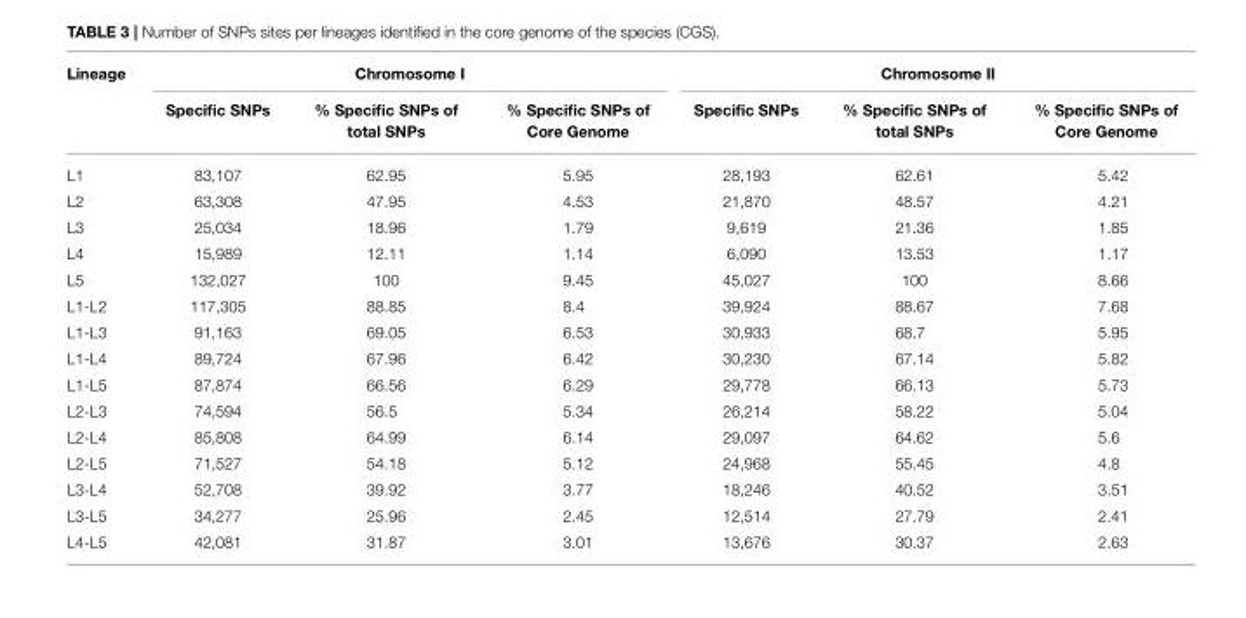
<table><thead><tr><td rowspan="2">Lineage</td><td colspan="3">Chromosome I</td><td colspan="3">Chromosome II</td></tr><tr><td>Specific SNPs</td><td>% Specific SNPs of total SNPs</td><td>% Specific SNPs of Core Genome</td><td>Specific SNPs</td><td>% Specific SNPs of total SNPs</td><td>% Specific SNPs of Core Genome</td></tr></thead><tbody><tr><td>L1</td><td>83,107</td><td>62.95</td><td>5.95</td><td>28,193</td><td>62.61</td><td>5.42</td></tr><tr><td>L2</td><td>63,308</td><td>47.95</td><td>4.53</td><td>21,870</td><td>48.57</td><td>4.21</td></tr><tr><td>L3</td><td>25,034</td><td>18.96</td><td>1.79</td><td>9,619</td><td>21.36</td><td>1.85</td></tr><tr><td>L4</td><td>15,989</td><td>12.11</td><td>1.14</td><td>6,090</td><td>13.53</td><td>1.17</td></tr><tr><td>L5</td><td>132,027</td><td>100</td><td>9.45</td><td>45,027</td><td>100</td><td>8.66</td></tr><tr><td>L1-L2</td><td>117,305</td><td>88.85</td><td>8.4</td><td>39,924</td><td>88.67</td><td>7.68</td></tr><tr><td>L1-L3</td><td>91,163</td><td>69.05</td><td>6.53</td><td>30,933</td><td>68.7</td><td>5.95</td></tr><tr><td>L1-L4</td><td>89,724</td><td>67.96</td><td>6.42</td><td>30,230</td><td>67.14</td><td>5.82</td></tr><tr><td>L1-L5</td><td>87,874</td><td>66.56</td><td>6.29</td><td>29,778</td><td>66.13</td><td>5.73</td></tr><tr><td>L2-L3</td><td>74,594</td><td>56.5</td><td>5.34</td><td>26,214</td><td>58.22</td><td>5.04</td></tr><tr><td>L2-L4</td><td>85,808</td><td>64.99</td><td>6.14</td><td>29,097</td><td>64.62</td><td>5.6</td></tr><tr><td>L2-L5</td><td>71,527</td><td>54.18</td><td>5.12</td><td>24,968</td><td>55.45</td><td>4.8</td></tr><tr><td>L3-L4</td><td>52,708</td><td>39.92</td><td>3.77</td><td>18,246</td><td>40.52</td><td>3.51</td></tr><tr><td>L3-L5</td><td>34,277</td><td>25.96</td><td>2.45</td><td>12,514</td><td>27.79</td><td>2.41</td></tr><tr><td>L4-L5</td><td>42,081</td><td>31.87</td><td>3.01</td><td>13,676</td><td>30.37</td><td>2.63</td></tr></tbody></table>